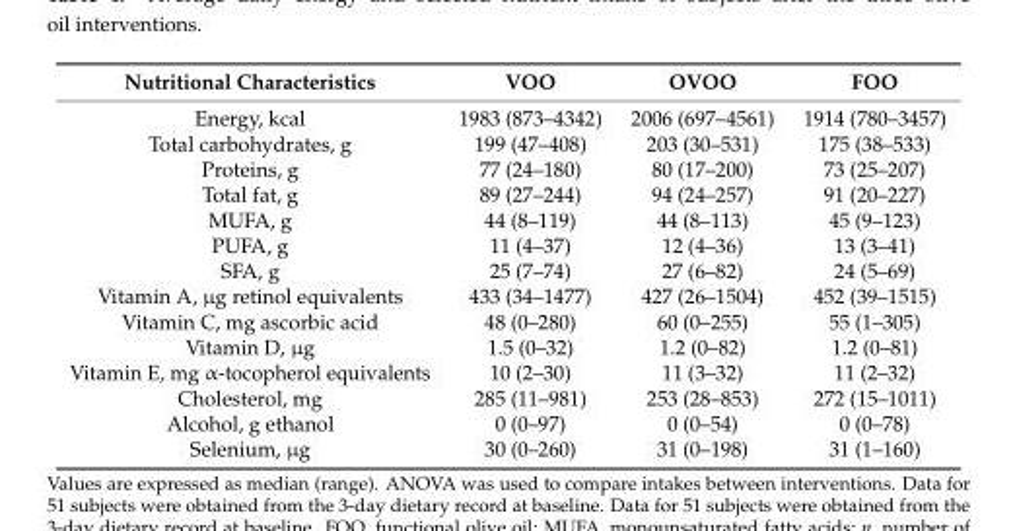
<table><thead><tr><td>Nutritional Characteristics</td><td>VOO</td><td>OVOO</td><td>FOO</td></tr></thead><tbody><tr><td>Energy, kcal</td><td>1983 (873–4342)</td><td>2006 (697–4561)</td><td>1914 (780–3457)</td></tr><tr><td>Total carbohydrates, g</td><td>199 (47–408)</td><td>203 (30–531)</td><td>175 (38–533)</td></tr><tr><td>Proteins, g</td><td>77 (24–180)</td><td>80 (17–200)</td><td>73 (25–207)</td></tr><tr><td>Total fat, g</td><td>89 (27–244)</td><td>94 (24–257)</td><td>91 (20–227)</td></tr><tr><td>MUFA, g</td><td>44 (8–119)</td><td>44 (8–113)</td><td>45 (9–123)</td></tr><tr><td>PUFA, g</td><td>11 (4–37)</td><td>12 (4–36)</td><td>13 (3–41)</td></tr><tr><td>SFA, g</td><td>25 (7–74)</td><td>27 (6–82)</td><td>24 (5–69)</td></tr><tr><td>Vitamin A, µg retinol equivalents</td><td>433 (34–1477)</td><td>427 (26–1504)</td><td>452 (39–1515)</td></tr><tr><td>Vitamin C, mg ascorbic acid</td><td>48 (0–280)</td><td>60 (0–255)</td><td>55 (1–305)</td></tr><tr><td>Vitamin D, µg</td><td>1.5 (0–32)</td><td>1.2 (0–82)</td><td>1.2 (0–81)</td></tr><tr><td>Vitamin E, mg α-tocopherol equivalents</td><td>10 (2–30)</td><td>11 (3–32)</td><td>11 (2–32)</td></tr><tr><td>Cholesterol, mg</td><td>285 (11–981)</td><td>253 (28–853)</td><td>272 (15–1011)</td></tr><tr><td>Alcohol, g ethanol</td><td>0 (0–97)</td><td>0 (0–54)</td><td>0 (0–78)</td></tr><tr><td>Selenium, µg</td><td>30 (0–260)</td><td>31 (0–198)</td><td>31 (1–160)</td></tr></tbody></table>